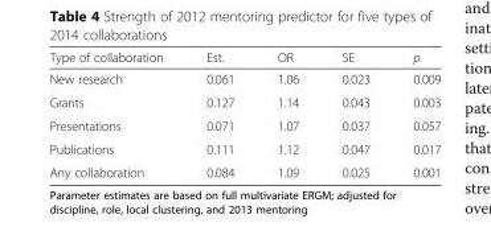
<table><thead><tr><td>Type of collaboration</td><td>Est.</td><td>OR</td><td>SE</td><td>p</td></tr></thead><tbody><tr><td>New research</td><td>0.061</td><td>1.06</td><td>0.023</td><td>0.009</td></tr><tr><td>Grants</td><td>0.127</td><td>1.14</td><td>0.043</td><td>0.003</td></tr><tr><td>Presentations</td><td>0.071</td><td>1.07</td><td>0.037</td><td>0.057</td></tr><tr><td>Publications</td><td>0.111</td><td>1.12</td><td>0.047</td><td>0.017</td></tr><tr><td>Any collaboration</td><td>0.084</td><td>1.09</td><td>0.025</td><td>0.001</td></tr></tbody></table>